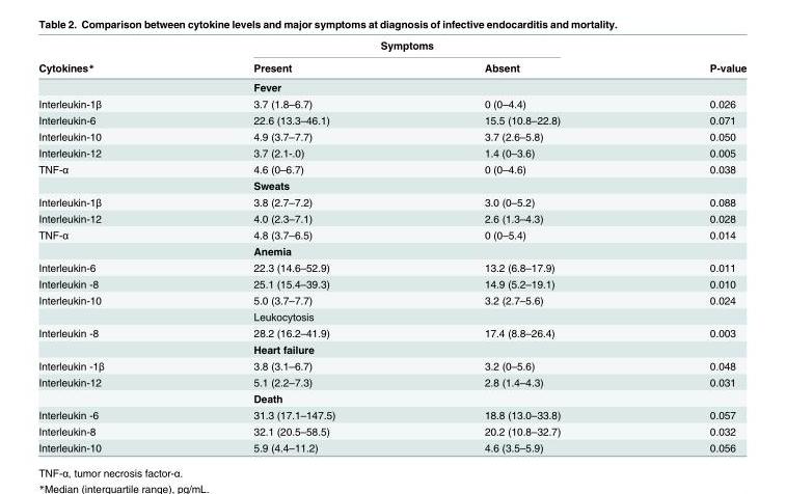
<table><thead><tr><td rowspan="2">Cytokines*</td><td colspan="2">Symptoms</td><td rowspan="2">P-value</td></tr><tr><td>Present</td><td>Absent</td></tr></thead><tbody><tr><td></td><td>Fever</td><td></td><td></td></tr><tr><td>Interleukin-1β</td><td>3.7 (1.8–6.7)</td><td>0 (0–4.4)</td><td>0.026</td></tr><tr><td>Interleukin-6</td><td>22.6 (13.3–46.1)</td><td>15.5 (10.8–22.8)</td><td>0.071</td></tr><tr><td>Interleukin-10</td><td>4.9 (3.7–7.7)</td><td>3.7 (2.6–5.8)</td><td>0.050</td></tr><tr><td>Interleukin-12</td><td>3.7 (2.1-.0)</td><td>1.4 (0–3.6)</td><td>0.005</td></tr><tr><td rowspan="2">TNF-α</td><td>4.6 (0–6.7)</td><td>0 (0–4.6)</td><td>0.038</td></tr><tr><td colspan="3">Sweats</td></tr><tr><td>Interleukin-1β</td><td>3.8 (2.7–7.2)</td><td>3.0 (0–5.2)</td><td>0.088</td></tr><tr><td>Interleukin-12</td><td>4.0 (2.3–7.1)</td><td>2.6 (1.3–4.3)</td><td>0.028</td></tr><tr><td rowspan="2">TNF-α</td><td>4.8 (3.7–6.5)</td><td>0 (0–5.4)</td><td>0.014</td></tr><tr><td colspan="3">Anemia</td></tr><tr><td>Interleukin-6</td><td>22.3 (14.6–52.9)</td><td>13.2 (6.8–17.9)</td><td>0.011</td></tr><tr><td>Interleukin -8</td><td>25.1 (15.4–39.3)</td><td>14.9 (5.2–19.1)</td><td>0.010</td></tr><tr><td rowspan="2">Interleukin-10</td><td>5.0 (3.7–7.7)</td><td>3.2 (2.7–5.6)</td><td>0.024</td></tr><tr><td>Leukocytosis</td><td></td><td></td></tr><tr><td rowspan="2">Interleukin -8</td><td>28.2 (16.2–41.9)</td><td>17.4 (8.8–26.4)</td><td>0.003</td></tr><tr><td>Heart failure</td><td></td><td></td></tr><tr><td>Interleukin -1β</td><td>3.8 (3.1–6.7)</td><td>3.2 (0–5.6)</td><td>0.048</td></tr><tr><td rowspan="2">Interleukin-12</td><td>5.1 (2.2–7.3)</td><td>2.8 (1.4–4.3)</td><td>0.031</td></tr><tr><td>Death</td><td></td><td></td></tr><tr><td>Interleukin -6</td><td>31.3 (17.1–147.5)</td><td>18.8 (13.0–33.8)</td><td>0.057</td></tr><tr><td>Interleukin-8</td><td>32.1 (20.5–58.5)</td><td>20.2 (10.8–32.7)</td><td>0.032</td></tr><tr><td>Interleukin-10</td><td>5.9 (4.4–11.2)</td><td>4.6 (3.5–5.9)</td><td>0.056</td></tr></tbody></table>